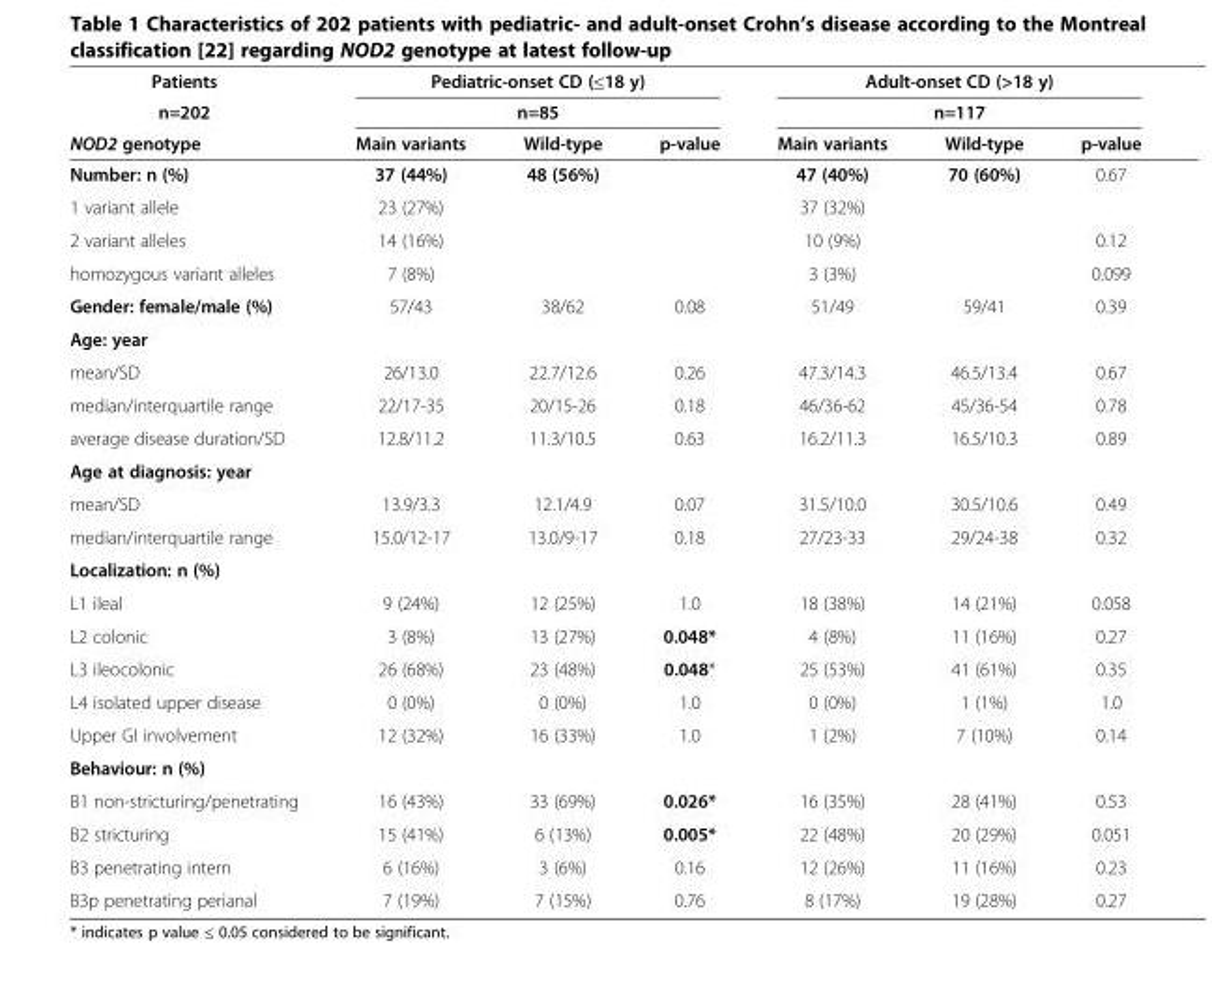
<table><thead><tr><td rowspan="3">Patients n=202 NOD2 genotype</td><td rowspan="2" colspan="3">Pediatric-onset CD (≤18 y) n=85</td><td rowspan="2" colspan="3">Adult-onset CD (&gt;18 y) n=117</td></tr><tr></tr><tr><td>Main variants</td><td>Wild-type</td><td>p-value</td><td>Main variants</td><td>Wild-type</td><td>p-value</td></tr></thead><tbody><tr><td>Number: n (%)</td><td>37 (44%)</td><td>48 (56%)</td><td></td><td>47 (40%)</td><td>70 (60%)</td><td rowspan="2">0.67</td></tr><tr><td>1 variant allele</td><td>23 (27%)</td><td></td><td></td><td>37 (32%)</td><td></td></tr><tr><td>2 variant alleles</td><td>14 (16%)</td><td></td><td></td><td>10 (9%)</td><td></td><td>0.12</td></tr><tr><td>homozygous variant alleles</td><td>7 (8%)</td><td></td><td></td><td>3 (3%)</td><td></td><td>0.099</td></tr><tr><td>Gender: female/male (%)</td><td>57/43</td><td>38/62</td><td>0.08</td><td>51/49</td><td>59/41</td><td>0.39</td></tr><tr><td colspan="7">Age: year</td></tr><tr><td>mean/SD</td><td>26/13.0</td><td>22.7/12.6</td><td>0.26</td><td>47.3/14.3</td><td>46.5/13.4</td><td>0.67</td></tr><tr><td>median/interquartile range</td><td>22/17-35</td><td>20/15-26</td><td>0.18</td><td>46/36-62</td><td>45/36-54</td><td>0.78</td></tr><tr><td>average disease duration/SD</td><td>12.8/11.2</td><td>11.3/10.5</td><td>0.63</td><td>16.2/11.3</td><td>16.5/10.3</td><td>0.89</td></tr><tr><td colspan="7">Age at diagnosis: year</td></tr><tr><td>mean/SD</td><td>13.9/3.3</td><td>12.1/4.9</td><td>0.07</td><td>31.5/10.0</td><td>30.5/10.6</td><td>0.49</td></tr><tr><td>median/interquartile range</td><td>15.0/12-17</td><td>13.0/9-17</td><td>0.18</td><td>27/23-33</td><td>29/24-38</td><td>0.32</td></tr><tr><td colspan="7">Localization: n (%)</td></tr><tr><td>L1 ileal</td><td>9 (24%)</td><td>12 (25%)</td><td>1.0</td><td>18 (38%)</td><td>14 (21%)</td><td>0.058</td></tr><tr><td>L2 colonic</td><td>3 (8%)</td><td>13 (27%)</td><td>0.048*</td><td>4 (8%)</td><td>11 (16%)</td><td>0.27</td></tr><tr><td>L3 ileocolonic</td><td>26 (68%)</td><td>23 (48%)</td><td>0.048*</td><td>25 (53%)</td><td>41 (61%)</td><td>0.35</td></tr><tr><td>L4 isolated upper disease</td><td>0 (0%)</td><td>0 (0%)</td><td>1.0</td><td>0 (0%)</td><td>1 (1%)</td><td>1.0</td></tr><tr><td>Upper GI involvement</td><td>12 (32%)</td><td>16 (33%)</td><td>1.0</td><td>1 (2%)</td><td>7 (10%)</td><td>0.14</td></tr><tr><td colspan="7">Behaviour: n (%)</td></tr><tr><td>B1 non-stricturing/penetrating</td><td>16 (43%)</td><td>33 (69%)</td><td>0.026*</td><td>16 (35%)</td><td>28 (41%)</td><td>0.53</td></tr><tr><td>B2 stricturing</td><td>15 (41%)</td><td>6 (13%)</td><td>0.005*</td><td>22 (48%)</td><td>20 (29%)</td><td>0.051</td></tr><tr><td>B3 penetrating intern</td><td>6 (16%)</td><td>3 (6%)</td><td>0.16</td><td>12 (26%)</td><td>11 (16%)</td><td>0.23</td></tr><tr><td>B3p penetrating perianal</td><td>7 (19%)</td><td>7 (15%)</td><td>0.76</td><td>8 (17%)</td><td>19 (28%)</td><td>0.27</td></tr></tbody></table>